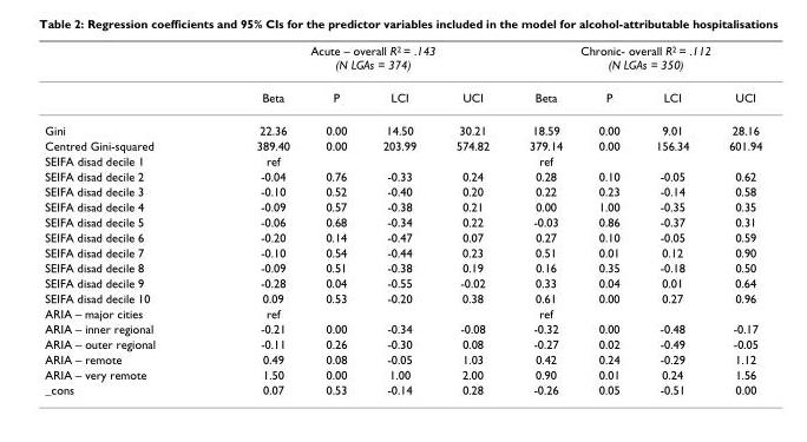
<table><thead><tr><td rowspan="2"></td><td colspan="4">Acute – overall R2 = .143 (N LGAs = 374)</td><td colspan="4">Chronic- overall R2 = .112 (N LGAs = 350)</td></tr><tr><td>Beta</td><td>P</td><td>LCI</td><td>UCI</td><td>Beta</td><td>P</td><td>LCI</td><td>UCI</td></tr></thead><tbody><tr><td>Gini</td><td>22.36</td><td>0.00</td><td>14.50</td><td>30.21</td><td>18.59</td><td>0.00</td><td>9.01</td><td>28.16</td></tr><tr><td>Centred Gini-squared</td><td>389.40</td><td>0.00</td><td>203.99</td><td>574.82</td><td>379.14</td><td>0.00</td><td>156.34</td><td>601.94</td></tr><tr><td>SEIFA disad decile 1</td><td>ref</td><td></td><td></td><td></td><td>ref</td><td></td><td></td><td></td></tr><tr><td>SEIFA disad decile 2</td><td>-0.04</td><td>0.76</td><td>-0.33</td><td>0.24</td><td>0.28</td><td>0.10</td><td>-0.05</td><td>0.62</td></tr><tr><td>SEIFA disad decile 3</td><td>-0.10</td><td>0.52</td><td>-0.40</td><td>0.20</td><td>0.22</td><td>0.23</td><td>-0.14</td><td>0.58</td></tr><tr><td>SEIFA disad decile 4</td><td>-0.09</td><td>0.57</td><td>-0.38</td><td>0.21</td><td>0.00</td><td>1.00</td><td>-0.35</td><td>0.35</td></tr><tr><td>SEIFA disad decile 5</td><td>-0.06</td><td>0.68</td><td>-0.34</td><td>0.22</td><td>-0.03</td><td>0.86</td><td>-0.37</td><td>0.31</td></tr><tr><td>SEIFA disad decile 6</td><td>-0.20</td><td>0.14</td><td>-0.47</td><td>0.07</td><td>0.27</td><td>0.10</td><td>-0.05</td><td>0.59</td></tr><tr><td>SEIFA disad decile 7</td><td>-0.10</td><td>0.54</td><td>-0.44</td><td>0.23</td><td>0.51</td><td>0.01</td><td>0.12</td><td>0.90</td></tr><tr><td>SEIFA disad decile 8</td><td>-0.09</td><td>0.51</td><td>-0.38</td><td>0.19</td><td>0.16</td><td>0.35</td><td>-0.18</td><td>0.50</td></tr><tr><td>SEIFA disad decile 9</td><td>-0.28</td><td>0.04</td><td>-0.55</td><td>-0.02</td><td>0.33</td><td>0.04</td><td>0.01</td><td>0.64</td></tr><tr><td>SEIFA disad decile 10</td><td>0.09</td><td>0.53</td><td>-0.20</td><td>0.38</td><td>0.61</td><td>0.00</td><td>0.27</td><td>0.96</td></tr><tr><td>ARIA – major cities</td><td>ref</td><td></td><td></td><td></td><td>ref</td><td></td><td></td><td></td></tr><tr><td>ARIA – inner regional</td><td>-0.21</td><td>0.00</td><td>-0.34</td><td>-0.08</td><td>-0.32</td><td>0.00</td><td>-0.48</td><td>-0.17</td></tr><tr><td>ARIA – outer regional</td><td>-0.11</td><td>0.26</td><td>-0.30</td><td>0.08</td><td>-0.27</td><td>0.02</td><td>-0.49</td><td>-0.05</td></tr><tr><td>ARIA – remote</td><td>0.49</td><td>0.08</td><td>-0.05</td><td>1.03</td><td>0.42</td><td>0.24</td><td>-0.29</td><td>1.12</td></tr><tr><td>ARIA – very remote</td><td>1.50</td><td>0.00</td><td>1.00</td><td>2.00</td><td>0.90</td><td>0.01</td><td>0.24</td><td>1.56</td></tr><tr><td>_cons</td><td>0.07</td><td>0.53</td><td>-0.14</td><td>0.28</td><td>-0.26</td><td>0.05</td><td>-0.51</td><td>0.00</td></tr></tbody></table>